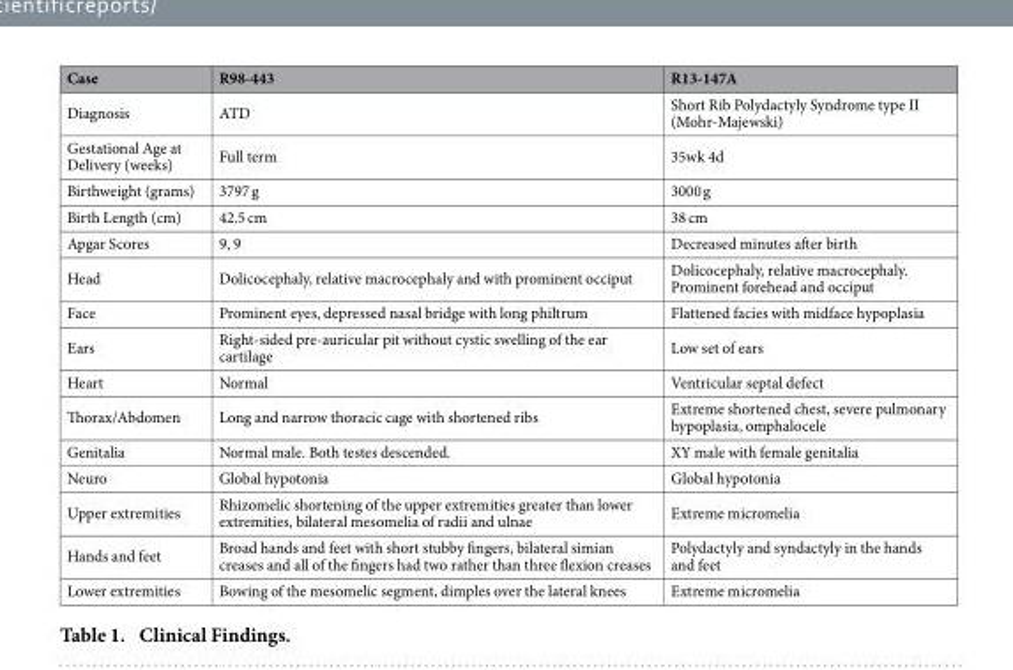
<table><thead><tr><td>Case</td><td>R98-443</td><td>R13-147A</td></tr></thead><tbody><tr><td>Diagnosis</td><td>ATD</td><td>Short Rib Polydactyly Syndrome type II (Mohr-Majewski)</td></tr><tr><td>Gestational Age at Delivery (weeks)</td><td>Full term</td><td>35wk 4d</td></tr><tr><td>Birthweight (grams)</td><td>3797 g</td><td>3000 g</td></tr><tr><td>Birth Length (cm)</td><td>42.5 cm</td><td>38 cm</td></tr><tr><td>Apgar Scores</td><td>9, 9</td><td>Decreased minutes after birth</td></tr><tr><td>Head</td><td>Dolicocephaly, relative macrocephaly and with prominent occiput</td><td>Dolicocephaly, relative macrocephaly. Prominent forehead and occiput</td></tr><tr><td>Face</td><td>Prominent eyes, depressed nasal bridge with long philtrum</td><td>Flattened facies with midface hypoplasia</td></tr><tr><td>Ears</td><td>Right-sided pre-auricular pit without cystic swelling of the ear cartilage</td><td>Low set of ears</td></tr><tr><td>Heart</td><td>Normal</td><td>Ventricular septal defect</td></tr><tr><td>Thorax/Abdomen</td><td>Long and narrow thoracic cage with shortened ribs</td><td>Extreme shortened chest, severe pulmonary hypoplasia, omphalocele</td></tr><tr><td>Genitalia</td><td>Normal male. Both testes descended.</td><td>XY male with female genitalia</td></tr><tr><td>Neuro</td><td>Global hypotonia</td><td>Global hypotonia</td></tr><tr><td>Upper extremities</td><td>Rhizomelic shortening of the upper extremities greater than lower extremities, bilateral mesomelia of radii and ulnae</td><td>Extreme micromelia</td></tr><tr><td>Hands and feet</td><td>Broad hands and feet with short stubby fingers, bilateral simian creases and all of the fingers had two rather than three flexion creases</td><td>Polydactyly and syndactyly in the hands and feet</td></tr><tr><td>Lower extremities</td><td>Bowing of the mesomelic segment, dimples over the lateral knees</td><td>Extreme micromelia</td></tr></tbody></table>